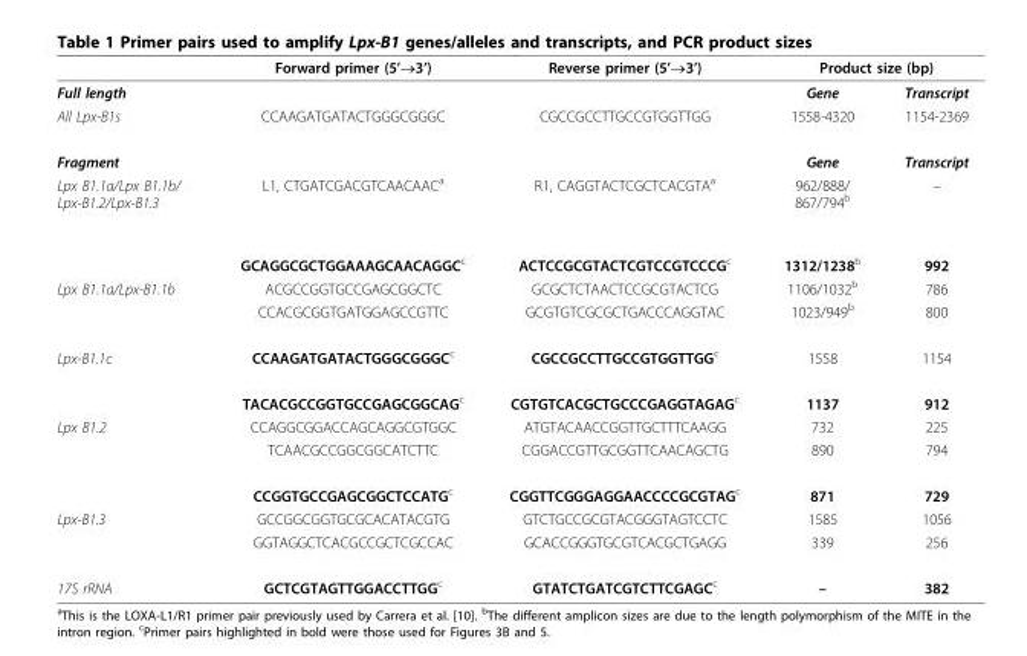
<table><thead><tr><td rowspan="2">Full length</td><td rowspan="2">Forward primer (5’→3’)</td><td rowspan="2">Reverse primer (5’→3’)</td><td colspan="2">Product size (bp)</td></tr><tr><td>Gene</td><td>Transcript</td></tr></thead><tbody><tr><td>All Lpx-B1s</td><td>CCAAGATGATACTGGGCGGGC</td><td>CGCCGCCTTGCCGTGGTTGG</td><td>1558-4320</td><td>1154-2369</td></tr><tr><td>Fragment</td><td></td><td></td><td>Gene</td><td>Transcript</td></tr><tr><td rowspan="2">Lpx B1.1a/Lpx B1.1b/ Lpx-B1.2/Lpx-B1.3</td><td>L1, CTGATCGACGTCAACAAC<sup>a</sup></td><td>R1, CAGGTACTCGCTCACGTA<sup>a</sup></td><td>962/888/ 867/794<sup>b</sup></td><td>–</td></tr><tr><td>GCAGGCGCTGGAAAGCAACAGGC<sup>c</sup></td><td>ACTCCGCGTACTCGTCCGTCCCG<sup>c</sup></td><td>1312/1238<sup>b</sup></td><td>992</td></tr><tr><td rowspan="2">Lpx B1.1a/Lpx-B1.1b</td><td>ACGCCGGTGCCGAGCGGCTC</td><td>GCGCTCTAACTCCGCGTACTCG</td><td>1106/1032<sup>b</sup></td><td>786</td></tr><tr><td>CCACGCGGTGATGGAGCCGTTC</td><td>GCGTGTCGCGCTGACCCAGGTAC</td><td>1023/949<sup>b</sup></td><td>800</td></tr><tr><td rowspan="2">Lpx-B1.1c</td><td>CCAAGATGATACTGGGCGGGC<sup>c</sup></td><td>CGCCGCCTTGCCGTGGTTGG<sup>c</sup></td><td>1558</td><td>1154</td></tr><tr><td>TACACGCCGGTGCCGAGCGGCAG<sup>c</sup></td><td>CGTGTCACGCTGCCCGAGGTAGAG<sup>c</sup></td><td>1137</td><td>912</td></tr><tr><td rowspan="3">Lpx B1.2</td><td>CCAGGCGGACCAGCAGGCGTGGC</td><td>ATGTACAACCGGTTGCTTTCAAGG</td><td>732</td><td>225</td></tr><tr><td>TCAACGCCGGCGGCATCTTC</td><td>CGGACCGTTGCGGTTCAACAGCTG</td><td>890</td><td>794</td></tr><tr><td>CCGGTGCCGAGCGGCTCCATG<sup>c</sup></td><td>CGGTTCGGGAGGAACCCCGCGTAG<sup>c</sup></td><td>871</td><td>729</td></tr><tr><td rowspan="2">Lpx-B1.3</td><td>GCCGGCGGTGCGCACATACGTG</td><td>GTCTGCCGCGTACGGGTAGTCCTC</td><td>1585</td><td>1056</td></tr><tr><td>GGTAGGCTCACGCCGCTCGCCAC</td><td>GCACCGGGTGCGTCACGCTGAGG</td><td>339</td><td>256</td></tr><tr><td>17S rRNA</td><td>GCTCGTAGTTGGACCTTGG<sup>c</sup></td><td>GTATCTGATCGTCTTCGAGC<sup>c</sup></td><td>–</td><td>382</td></tr></tbody></table>